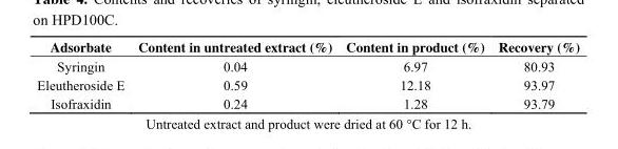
<table><thead><tr><td>Adsorbate</td><td>Content in untreated extract (%)</td><td>Content in product (%)</td><td>Recovery (%)</td></tr></thead><tbody><tr><td>Syringin</td><td>0.04</td><td>6.97</td><td>80.93</td></tr><tr><td>Eleutheroside E</td><td>0.59</td><td>12.18</td><td>93.97</td></tr><tr><td>Isofraxidin</td><td>0.24</td><td>1.28</td><td>93.79</td></tr></tbody></table>